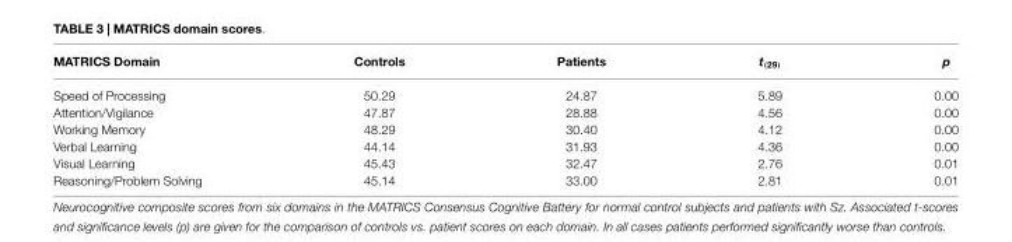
<table><thead><tr><td>MATRICS Domain</td><td>Controls</td><td>Patients</td><td>t<sub>(29)</sub></td><td>p</td></tr></thead><tbody><tr><td>Speed of Processing</td><td>50.29</td><td>24.87</td><td>5.89</td><td>0.00</td></tr><tr><td>Attention/Vigilance</td><td>47.87</td><td>28.88</td><td>4.56</td><td>0.00</td></tr><tr><td>Working Memory</td><td>48.29</td><td>30.40</td><td>4.12</td><td>0.00</td></tr><tr><td>Verbal Learning</td><td>44.14</td><td>31.93</td><td>4.36</td><td>0.00</td></tr><tr><td>Visual Learning</td><td>45.43</td><td>32.47</td><td>2.76</td><td>0.01</td></tr><tr><td>Reasoning/Problem Solving</td><td>45.14</td><td>33.00</td><td>2.81</td><td>0.01</td></tr></tbody></table>